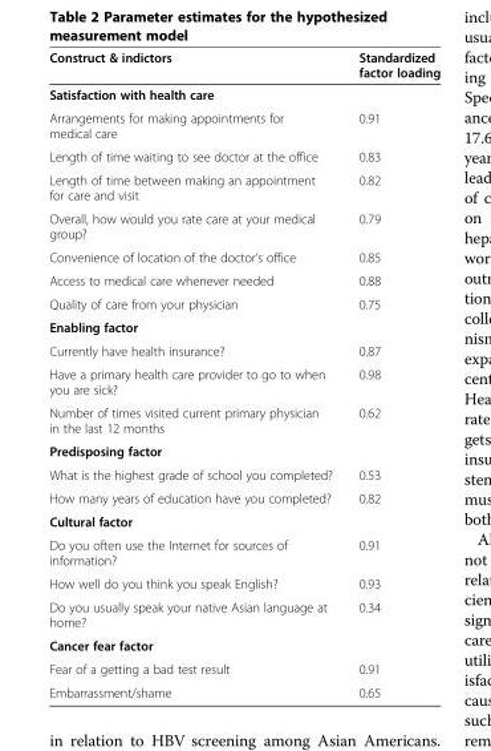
<table><thead><tr><td>Construct &amp; indictors</td><td>Standardized factor loading</td></tr></thead><tbody><tr><td colspan="2">Satisfaction with health care</td></tr><tr><td>Arrangements for making appointments for medical care</td><td>0.91</td></tr><tr><td>Length of time waiting to see doctor at the office</td><td>0.83</td></tr><tr><td>Length of time between making an appointment for care and visit</td><td>0.82</td></tr><tr><td>Overall, how would you rate care at your medical group?</td><td>0.79</td></tr><tr><td>Convenience of location of the doctor’s office</td><td>0.85</td></tr><tr><td>Access to medical care whenever needed</td><td>0.88</td></tr><tr><td>Quality of care from your physician</td><td>0.75</td></tr><tr><td colspan="2">Enabling factor</td></tr><tr><td>Currently have health insurance?</td><td>0.87</td></tr><tr><td>Have a primary health care provider to go to when you are sick?</td><td>0.98</td></tr><tr><td>Number of times visited current primary physician in the last 12 months</td><td>0.62</td></tr><tr><td colspan="2">Predisposing factor</td></tr><tr><td>What is the highest grade of school you completed?</td><td>0.53</td></tr><tr><td>How many years of education have you completed?</td><td>0.82</td></tr><tr><td colspan="2">Cultural factor</td></tr><tr><td>Do you often use the Internet for sources of information?</td><td>0.91</td></tr><tr><td>How well do you think you speak English?</td><td>0.93</td></tr><tr><td>Do you usually speak your native Asian language at home?</td><td>0.34</td></tr><tr><td colspan="2">Cancer fear factor</td></tr><tr><td>Fear of a getting a bad test result</td><td>0.91</td></tr><tr><td>Embarrassment/shame</td><td>0.65</td></tr></tbody></table>